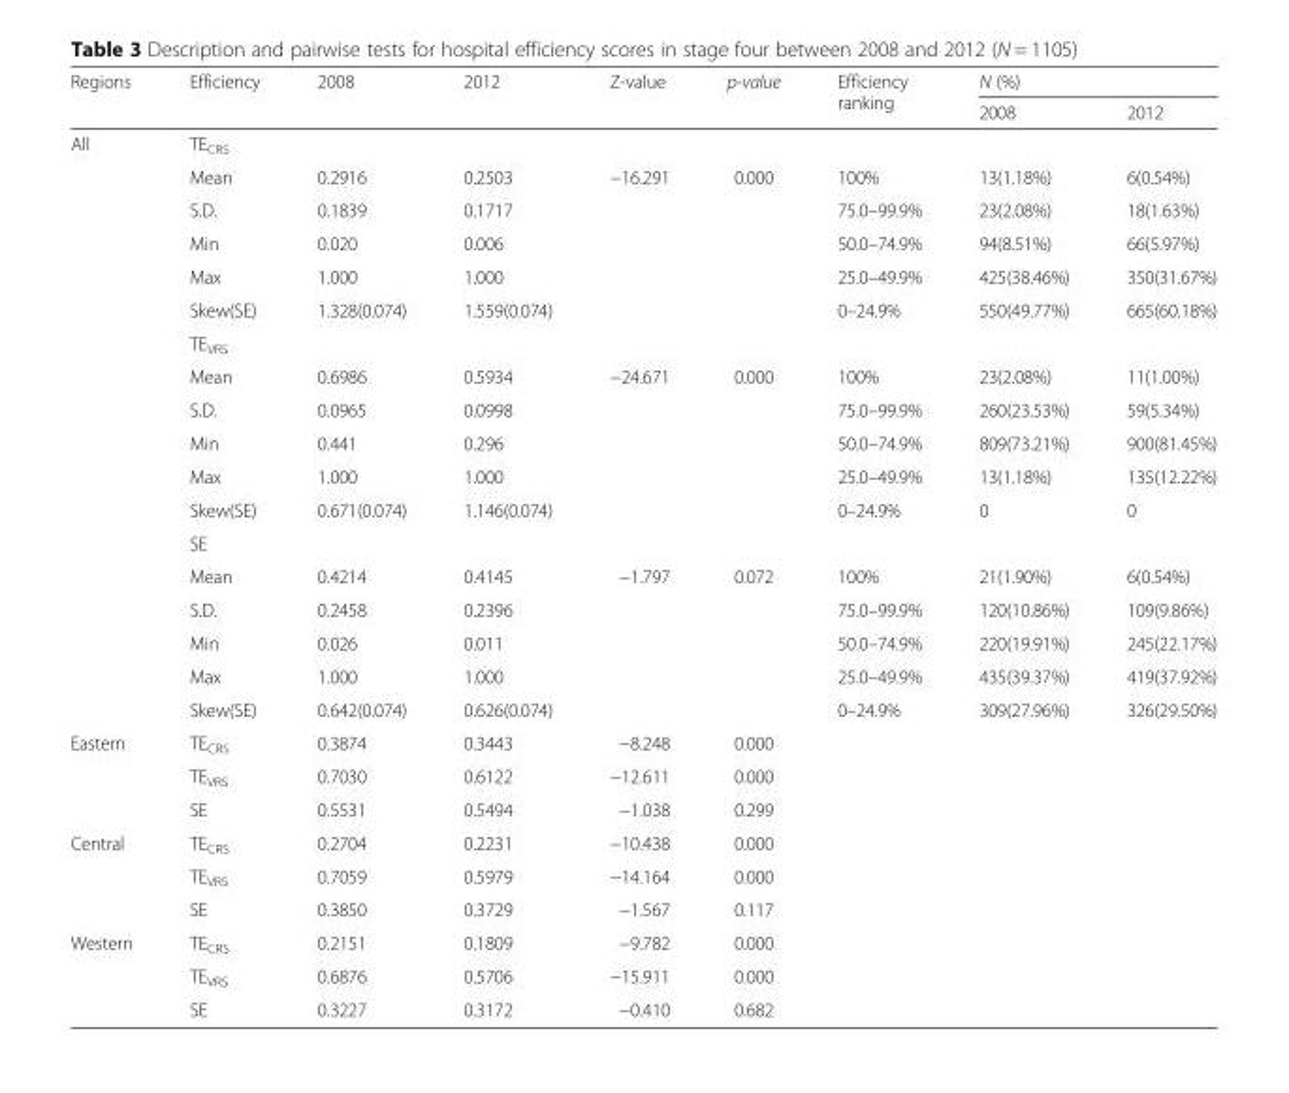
<table><thead><tr><td rowspan="2">Regions</td><td rowspan="2">Efficiency</td><td rowspan="2">2008</td><td rowspan="2">2012</td><td rowspan="2">Z-value</td><td rowspan="2">p-value</td><td rowspan="2">Efficiency ranking</td><td colspan="2">N (%)</td></tr><tr><td>2008</td><td>2012</td></tr></thead><tbody><tr><td rowspan="18">All</td><td colspan="8">TE<sub>CRS</sub></td></tr><tr><td>Mean</td><td>0.2916</td><td>0.2503</td><td rowspan="5">−16.291</td><td rowspan="5">0.000</td><td>100%</td><td>13(1.18%)</td><td>6(0.54%)</td></tr><tr><td>S.D.</td><td>0.1839</td><td>0.1717</td><td>75.0–99.9%</td><td>23(2.08%)</td><td>18(1.63%)</td></tr><tr><td>Min</td><td>0.020</td><td>0.006</td><td>50.0–74.9%</td><td>94(8.51%)</td><td>66(5.97%)</td></tr><tr><td>Max</td><td>1.000</td><td>1.000</td><td>25.0–49.9%</td><td>425(38.46%)</td><td>350(31.67%)</td></tr><tr><td>Skew(SE)</td><td>1.328(0.074)</td><td>1.559(0.074)</td><td>0–24.9%</td><td>550(49.77%)</td><td>665(60.18%)</td></tr><tr><td colspan="8">TE<sub>VRS</sub></td></tr><tr><td>Mean</td><td>0.6986</td><td>0.5934</td><td rowspan="5">−24.671</td><td rowspan="5">0.000</td><td>100%</td><td>23(2.08%)</td><td>11(1.00%)</td></tr><tr><td>S.D.</td><td>0.0965</td><td>0.0998</td><td>75.0–99.9%</td><td>260(23.53%)</td><td>59(5.34%)</td></tr><tr><td>Min</td><td>0.441</td><td>0.296</td><td>50.0–74.9%</td><td>809(73.21%)</td><td>900(81.45%)</td></tr><tr><td>Max</td><td>1.000</td><td>1.000</td><td>25.0–49.9%</td><td>13(1.18%)</td><td>135(12.22%)</td></tr><tr><td>Skew(SE)</td><td>0.671(0.074)</td><td>1.146(0.074)</td><td>0–24.9%</td><td>0</td><td>0</td></tr><tr><td colspan="8">SE</td></tr><tr><td>Mean</td><td>0.4214</td><td>0.4145</td><td rowspan="5">−1.797</td><td rowspan="5">0.072</td><td>100%</td><td>21(1.90%)</td><td>6(0.54%)</td></tr><tr><td>S.D.</td><td>0.2458</td><td>0.2396</td><td>75.0–99.9%</td><td>120(10.86%)</td><td>109(9.86%)</td></tr><tr><td>Min</td><td>0.026</td><td>0.011</td><td>50.0–74.9%</td><td>220(19.91%)</td><td>245(22.17%)</td></tr><tr><td>Max</td><td>1.000</td><td>1.000</td><td>25.0–49.9%</td><td>435(39.37%)</td><td>419(37.92%)</td></tr><tr><td>Skew(SE)</td><td>0.642(0.074)</td><td>0.626(0.074)</td><td>0–24.9%</td><td>309(27.96%)</td><td>326(29.50%)</td></tr><tr><td rowspan="3">Eastern</td><td>TE<sub>CRS</sub></td><td>0.3874</td><td>0.3443</td><td>−8.248</td><td>0.000</td><td rowspan="9" colspan="3"></td></tr><tr><td>TE<sub>VRS</sub></td><td>0.7030</td><td>0.6122</td><td>−12.611</td><td>0.000</td></tr><tr><td>SE</td><td>0.5531</td><td>0.5494</td><td>−1.038</td><td>0.299</td></tr><tr><td rowspan="3">Central</td><td>TE<sub>CRS</sub></td><td>0.2704</td><td>0.2231</td><td>−10.438</td><td>0.000</td></tr><tr><td>TE<sub>VRS</sub></td><td>0.7059</td><td>0.5979</td><td>−14.164</td><td>0.000</td></tr><tr><td>SE</td><td>0.3850</td><td>0.3729</td><td>−1.567</td><td>0.117</td></tr><tr><td rowspan="3">Western</td><td>TE<sub>CRS</sub></td><td>0.2151</td><td>0.1809</td><td>−9.782</td><td>0.000</td></tr><tr><td>TE<sub>VRS</sub></td><td>0.6876</td><td>0.5706</td><td>−15.911</td><td>0.000</td></tr><tr><td>SE</td><td>0.3227</td><td>0.3172</td><td>−0.410</td><td>0.682</td></tr></tbody></table>